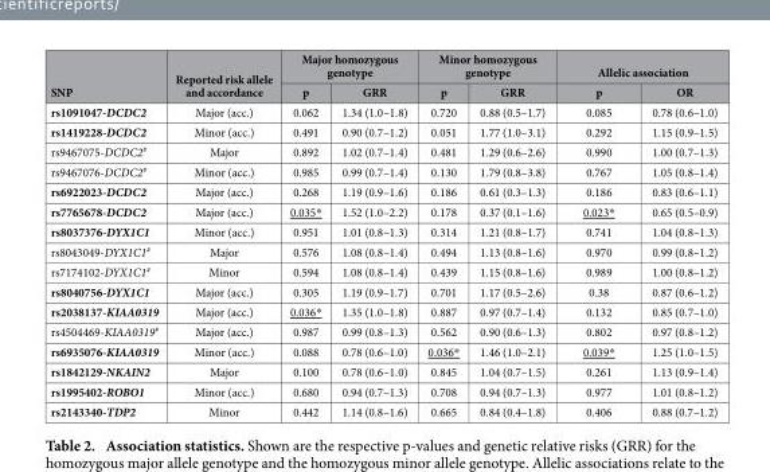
<table><thead><tr><td rowspan="2">SNP</td><td rowspan="2">Reported risk allele and accordance</td><td colspan="2">Major homozygous genotype</td><td colspan="2">Minor homozygous genotype</td><td colspan="2">Allelic association</td></tr><tr><td>p</td><td>GRR</td><td>p</td><td>GRR</td><td>p</td><td>OR</td></tr></thead><tbody><tr><td>rs1091047-DCDC2</td><td>Major (acc.)</td><td>0.062</td><td>1.34 (1.0–1.8)</td><td>0.720</td><td>0.88 (0.5–1.7)</td><td>0.085</td><td>0.78 (0.6–1.0)</td></tr><tr><td>rs1419228-DCDC2</td><td>Minor (acc.)</td><td>0.491</td><td>0.90 (0.7–1.2)</td><td>0.051</td><td>1.77 (1.0–3.1)</td><td>0.292</td><td>1.15 (0.9–1.5)</td></tr><tr><td>rs9467075-DCDC2<sup>#</sup></td><td>Major</td><td>0.892</td><td>1.02 (0.7–1.4)</td><td>0.481</td><td>1.29 (0.6–2.6)</td><td>0.990</td><td>1.00 (0.7–1.3)</td></tr><tr><td>rs9467076-DCDC2<sup>#</sup></td><td>Minor (acc.)</td><td>0.985</td><td>0.99 (0.7–1.4)</td><td>0.130</td><td>1.79 (0.8–3.8)</td><td>0.767</td><td>1.05 (0.8–1.4)</td></tr><tr><td>rs6922023-DCDC2</td><td>Major (acc.)</td><td>0.268</td><td>1.19 (0.9–1.6)</td><td>0.186</td><td>0.61 (0.3–1.3)</td><td>0.186</td><td>0.83 (0.6–1.1)</td></tr><tr><td>rs7765678-DCDC2</td><td>Major (acc.)</td><td>0.035*</td><td>1.52 (1.0–2.2)</td><td>0.178</td><td>0.37 (0.1–1.6)</td><td>0.023*</td><td>0.65 (0.5–0.9)</td></tr><tr><td>rs8037376-DYX1C1</td><td>Minor (acc.)</td><td>0.951</td><td>1.01 (0.8–1.3)</td><td>0.314</td><td>1.21 (0.8–1.7)</td><td>0.741</td><td>1.04 (0.8–1.3)</td></tr><tr><td>rs8043049-DYX1C1<sup>#</sup></td><td>Major</td><td>0.576</td><td>1.08 (0.8–1.4)</td><td>0.494</td><td>1.13 (0.8–1.6)</td><td>0.970</td><td>0.99 (0.8–1.2)</td></tr><tr><td>rs7174102-DYX1C1<sup>#</sup></td><td>Minor</td><td>0.594</td><td>1.08 (0.8–1.4)</td><td>0.439</td><td>1.15 (0.8–1.6)</td><td>0.989</td><td>1.00 (0.8–1.2)</td></tr><tr><td>rs8040756-DYX1C1</td><td>Major (acc.)</td><td>0.305</td><td>1.19 (0.9–1.7)</td><td>0.701</td><td>1.17 (0.5–2.6)</td><td>0.38</td><td>0.87 (0.6–1.2)</td></tr><tr><td>rs2038137-KIAA0319</td><td>Major (acc.)</td><td>0.036*</td><td>1.35 (1.0–1.8)</td><td>0.887</td><td>0.97 (0.7–1.4)</td><td>0.132</td><td>0.85 (0.7–1.0)</td></tr><tr><td>rs4504469-KIAA0319<sup>#</sup></td><td>Major (acc.)</td><td>0.987</td><td>0.99 (0.8–1.3)</td><td>0.562</td><td>0.90 (0.6–1.3)</td><td>0.802</td><td>0.97 (0.8–1.2)</td></tr><tr><td>rs6935076-KIAA0319</td><td>Minor (acc.)</td><td>0.088</td><td>0.78 (0.6–1.0)</td><td>0.036*</td><td>1.46 (1.0–2.1)</td><td>0.039*</td><td>1.25 (1.0–1.5)</td></tr><tr><td>rs1842129-NKAIN2</td><td>Major</td><td>0.100</td><td>0.78 (0.6–1.0)</td><td>0.845</td><td>1.04 (0.7–1.5)</td><td>0.261</td><td>1.13 (0.9–1.4)</td></tr><tr><td>rs1995402-ROBO1</td><td>Minor (acc.)</td><td>0.680</td><td>0.94 (0.7–1.3)</td><td>0.708</td><td>0.94 (0.7–1.3)</td><td>0.977</td><td>1.01 (0.8–1.2)</td></tr><tr><td>rs2143340-TDP2</td><td>Minor</td><td>0.442</td><td>1.14 (0.8–1.6)</td><td>0.665</td><td>0.84 (0.4–1.8)</td><td>0.406</td><td>0.88 (0.7–1.2)</td></tr></tbody></table>